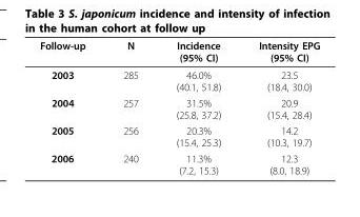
<table><thead><tr><td>Follow-up</td><td>N</td><td>Incidence (95% CI)</td><td>Intensity EPG (95% CI)</td></tr></thead><tbody><tr><td>2003</td><td>285</td><td>46.0% (40.1, 51.8)</td><td>23.5 (18.4, 30.0)</td></tr><tr><td>2004</td><td>257</td><td>31.5% (25.8, 37.2)</td><td>20.9 (15.4, 28.4)</td></tr><tr><td>2005</td><td>256</td><td>20.3% (15.4, 25.3)</td><td>14.2 (10.3, 19.7)</td></tr><tr><td>2006</td><td>240</td><td>11.3% (7.2, 15.3)</td><td>12.3 (8.0, 18.9)</td></tr></tbody></table>